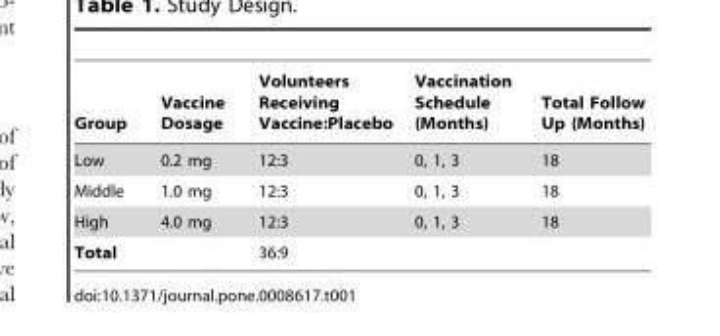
<table><thead><tr><td>Group</td><td>Vaccine Dosage</td><td>Volunteers Receiving Vaccine:Placebo</td><td>Vaccination Schedule (Months)</td><td>Total Follow Up (Months)</td></tr></thead><tbody><tr><td>Low</td><td>0.2 mg</td><td>12:3</td><td>0, 1, 3</td><td>18</td></tr><tr><td>Middle</td><td>1.0 mg</td><td>12:3</td><td>0, 1, 3</td><td>18</td></tr><tr><td>High</td><td>4.0 mg</td><td>12:3</td><td>0, 1, 3</td><td>18</td></tr><tr><td>Total</td><td></td><td>36:9</td><td></td><td></td></tr></tbody></table>